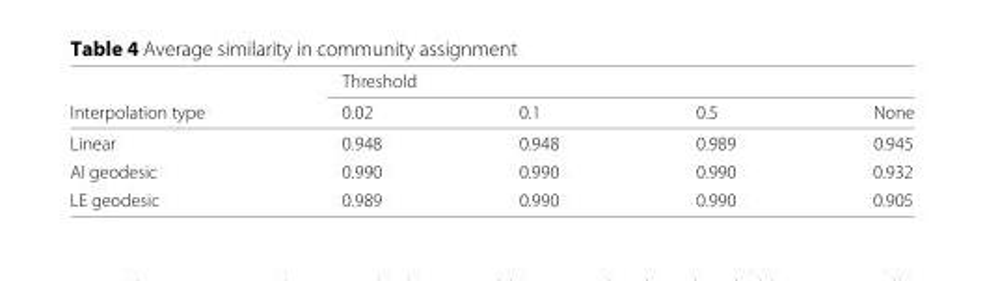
<table><thead><tr><td rowspan="2">Interpolation type</td><td colspan="4">Threshold</td></tr><tr><td>0.02</td><td>0.1</td><td>0.5</td><td>None</td></tr></thead><tbody><tr><td>Linear</td><td>0.948</td><td>0.948</td><td>0.989</td><td>0.945</td></tr><tr><td>AI geodesic</td><td>0.990</td><td>0.990</td><td>0.990</td><td>0.932</td></tr><tr><td>LE geodesic</td><td>0.989</td><td>0.990</td><td>0.990</td><td>0.905</td></tr></tbody></table>